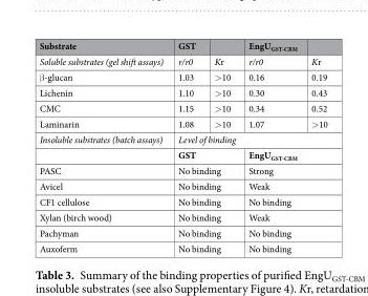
<table><thead><tr><td>Substrate</td><td>GST</td><td></td><td>EngU<sub>GST-CBM</sub></td><td></td></tr></thead><tbody><tr><td>Soluble substrates (gel shift assays)</td><td>r/r0</td><td>Kr</td><td>r/r0</td><td>Kr</td></tr><tr><td>β-glucan</td><td>1.03</td><td>&gt;10</td><td>0.16</td><td>0.19</td></tr><tr><td>Lichenin</td><td>1.10</td><td>&gt;10</td><td>0.30</td><td>0.43</td></tr><tr><td>CMC</td><td>1.15</td><td>&gt;10</td><td>0.34</td><td>0.52</td></tr><tr><td>Laminarin</td><td>1.08</td><td>&gt;10</td><td>1.07</td><td>&gt;10</td></tr><tr><td rowspan="2">Insoluble substrates (batch assays)</td><td colspan="4">Level of binding</td></tr><tr><td colspan="2">GST</td><td colspan="2">EngU<sub>GST-CBM</sub></td></tr><tr><td>PASC</td><td colspan="2">No binding</td><td colspan="2">Strong</td></tr><tr><td>Avicel</td><td colspan="2">No binding</td><td colspan="2">Weak</td></tr><tr><td>CF1 cellulose</td><td colspan="2">No binding</td><td colspan="2">No binding</td></tr><tr><td>Xylan (birch wood)</td><td colspan="2">No binding</td><td colspan="2">Weak</td></tr><tr><td>Pachyman</td><td colspan="2">No binding</td><td colspan="2">No binding</td></tr><tr><td>Auxoferm</td><td colspan="2">No binding</td><td colspan="2">No binding</td></tr></tbody></table>